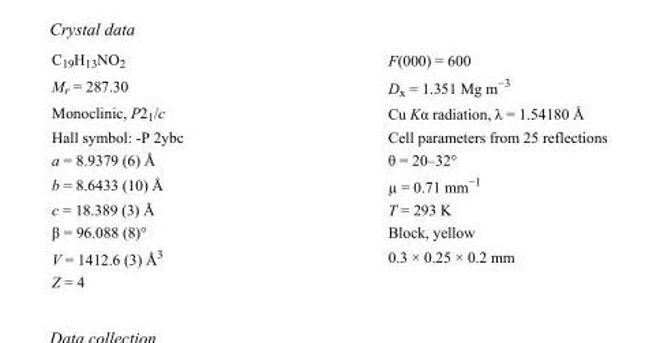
<table><tbody><tr><td>C<sub>19</sub>H<sub>13</sub>NO<sub>2</sub></td><td>F(000) = 600</td></tr><tr><td>M<sub>r</sub> = 287.30</td><td>D<sub>x</sub> = 1.351 Mg m<sup>−3</sup></td></tr><tr><td>Monoclinic, P2<sub>1</sub>/c</td><td>Cu Kα radiation, λ = 1.54180 Å</td></tr><tr><td>Hall symbol: -P 2ybc</td><td>Cell parameters from 25 reflections</td></tr><tr><td>a = 8.9379 (6) Å</td><td>θ = 20–32°</td></tr><tr><td>b = 8.6433 (10) Å</td><td>µ = 0.71 mm<sup>−1</sup></td></tr><tr><td>c = 18.389 (3) Å</td><td>T = 293 K</td></tr><tr><td>β = 96.088 (8)°</td><td>Block, yellow</td></tr><tr><td>V = 1412.6 (3) Å<sup>3</sup></td><td>0.3 × 0.25 × 0.2 mm</td></tr><tr><td>Z = 4</td><td></td></tr></tbody></table>